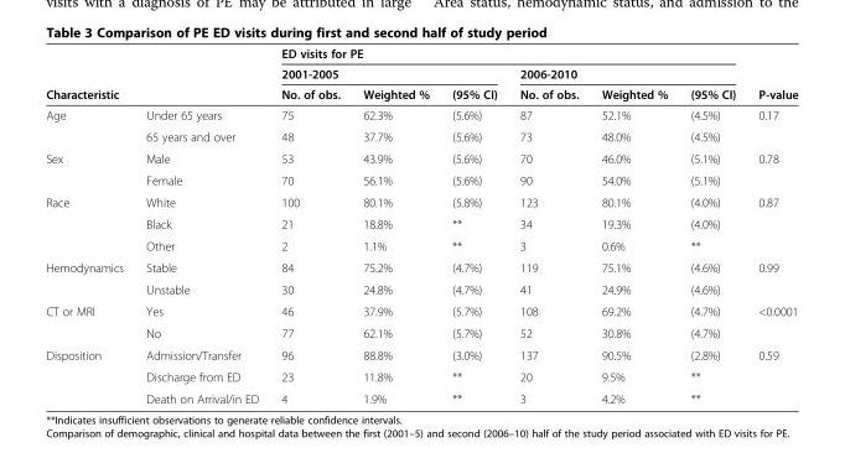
<table><thead><tr><td rowspan="3">Characteristic</td><td rowspan="3"></td><td colspan="6">ED visits for PE</td><td rowspan="3">P-value</td></tr><tr><td colspan="3">2001-2005</td><td colspan="3">2006-2010</td></tr><tr><td>No. of obs.</td><td>Weighted %</td><td>(95% CI)</td><td>No. of obs.</td><td>Weighted %</td><td>(95% CI)</td></tr></thead><tbody><tr><td rowspan="2">Age</td><td>Under 65 years</td><td>75</td><td>62.3%</td><td>(5.6%)</td><td>87</td><td>52.1%</td><td>(4.5%)</td><td>0.17</td></tr><tr><td>65 years and over</td><td>48</td><td>37.7%</td><td>(5.6%)</td><td>73</td><td>48.0%</td><td>(4.5%)</td><td></td></tr><tr><td rowspan="2">Sex</td><td>Male</td><td>53</td><td>43.9%</td><td>(5.6%)</td><td>70</td><td>46.0%</td><td>(5.1%)</td><td>0.78</td></tr><tr><td>Female</td><td>70</td><td>56.1%</td><td>(5.6%)</td><td>90</td><td>54.0%</td><td>(5.1%)</td><td></td></tr><tr><td rowspan="3">Race</td><td>White</td><td>100</td><td>80.1%</td><td>(5.8%)</td><td>123</td><td>80.1%</td><td>(4.0%)</td><td>0.87</td></tr><tr><td>Black</td><td>21</td><td>18.8%</td><td>**</td><td>34</td><td>19.3%</td><td>(4.0%)</td><td></td></tr><tr><td>Other</td><td>2</td><td>1.1%</td><td>**</td><td>3</td><td>0.6%</td><td>**</td><td></td></tr><tr><td rowspan="2">Hemodynamics</td><td>Stable</td><td>84</td><td>75.2%</td><td>(4.7%)</td><td>119</td><td>75.1%</td><td>(4.6%)</td><td>0.99</td></tr><tr><td>Unstable</td><td>30</td><td>24.8%</td><td>(4.7%)</td><td>41</td><td>24.9%</td><td>(4.6%)</td><td></td></tr><tr><td rowspan="2">CT or MRI</td><td>Yes</td><td>46</td><td>37.9%</td><td>(5.7%)</td><td>108</td><td>69.2%</td><td>(4.7%)</td><td>&lt;0.0001</td></tr><tr><td>No</td><td>77</td><td>62.1%</td><td>(5.7%)</td><td>52</td><td>30.8%</td><td>(4.7%)</td><td></td></tr><tr><td rowspan="3">Disposition</td><td>Admission/Transfer</td><td>96</td><td>88.8%</td><td>(3.0%)</td><td>137</td><td>90.5%</td><td>(2.8%)</td><td>0.59</td></tr><tr><td>Discharge from ED</td><td>23</td><td>11.8%</td><td>**</td><td>20</td><td>9.5%</td><td>**</td><td></td></tr><tr><td>Death on Arrival/in ED</td><td>4</td><td>1.9%</td><td>**</td><td>3</td><td>4.2%</td><td>**</td><td></td></tr></tbody></table>